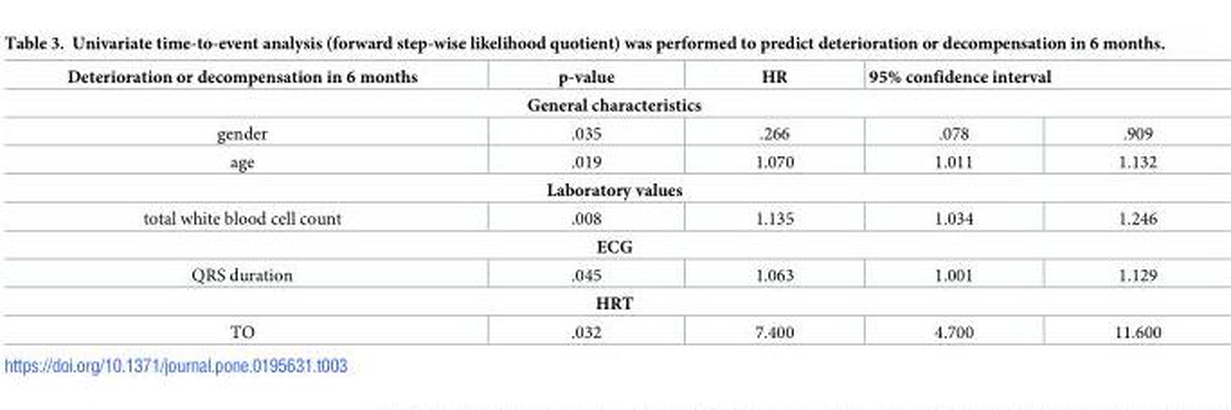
<table><thead><tr><td>Deterioration or decompensation in 6 months</td><td>p-value</td><td>HR</td><td colspan="2">95% confidence interval</td></tr><tr><td colspan="5">General characteristics</td></tr><tr><td>gender</td><td>.035</td><td>.266</td><td>.078</td><td>.909</td></tr></thead><tbody><tr><td>age</td><td>.019</td><td>1.070</td><td>1.011</td><td>1.132</td></tr><tr><td colspan="5">Laboratory values</td></tr><tr><td>total white blood cell count</td><td>.008</td><td>1.135</td><td>1.034</td><td>1.246</td></tr><tr><td colspan="5">ECG</td></tr><tr><td>QRS duration</td><td>.045</td><td>1.063</td><td>1.001</td><td>1.129</td></tr><tr><td colspan="5">HRT</td></tr><tr><td>TO</td><td>.032</td><td>7.400</td><td>4.700</td><td>11.600</td></tr></tbody></table>